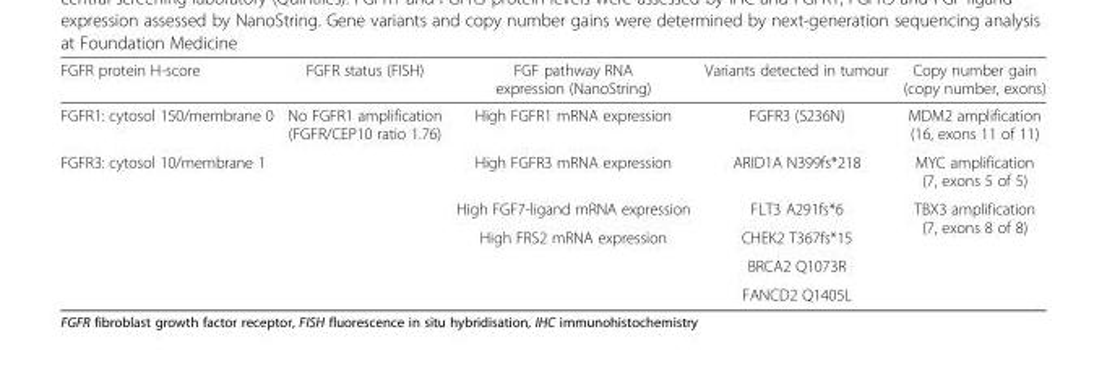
<table><thead><tr><td>FGFR protein H-score</td><td>FGFR status (FISH)</td><td>FGF pathway RNA expression (NanoString)</td><td>Variants detected in tumour</td><td>Copy number gain (copy number, exons)</td></tr></thead><tbody><tr><td>FGFR1: cytosol 150/membrane 0</td><td rowspan="6">No FGFR1 amplification (FGFR/CEP10 ratio 1.76)</td><td>High FGFR1 mRNA expression</td><td>FGFR3 (S236N)</td><td>MDM2 amplification (16, exons 11 of 11)</td></tr><tr><td rowspan="5">FGFR3: cytosol 10/membrane 1</td><td>High FGFR3 mRNA expression</td><td>ARID1A N399fs*218</td><td>MYC amplification (7, exons 5 of 5)</td></tr><tr><td>High FGF7-ligand mRNA expression</td><td>FLT3 A291fs*6</td><td rowspan="4">TBX3 amplification (7, exons 8 of 8)</td></tr><tr><td rowspan="3">High FRS2 mRNA expression</td><td>CHEK2 T367fs*15</td></tr><tr><td>BRCA2 Q1073R</td></tr><tr><td>FANCD2 Q1405L</td></tr></tbody></table>